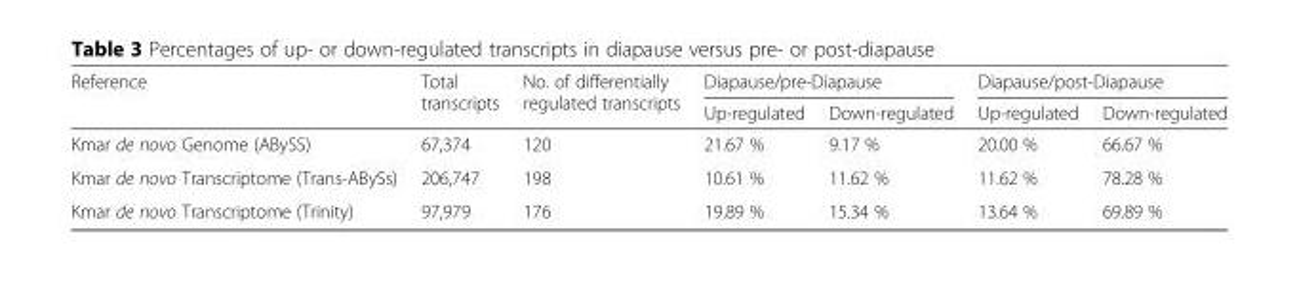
<table><thead><tr><td rowspan="2">Reference</td><td rowspan="2">Total transcripts</td><td rowspan="2">No. of differentially regulated transcripts</td><td colspan="2">Diapause/pre-Diapause</td><td colspan="2">Diapause/post-Diapause</td></tr><tr><td>Up-regulated</td><td>Down-regulated</td><td>Up-regulated</td><td>Down-regulated</td></tr></thead><tbody><tr><td>Kmar de novo Genome (ABySS)</td><td>67,374</td><td>120</td><td>21.67 %</td><td>9.17 %</td><td>20.00 %</td><td>66.67 %</td></tr><tr><td>Kmar de novo Transcriptome (Trans-ABySs)</td><td>206,747</td><td>198</td><td>10.61 %</td><td>11.62 %</td><td>11.62 %</td><td>78.28 %</td></tr><tr><td>Kmar de novo Transcriptome (Trinity)</td><td>97,979</td><td>176</td><td>19.89 %</td><td>15.34 %</td><td>13.64 %</td><td>69.89 %</td></tr></tbody></table>